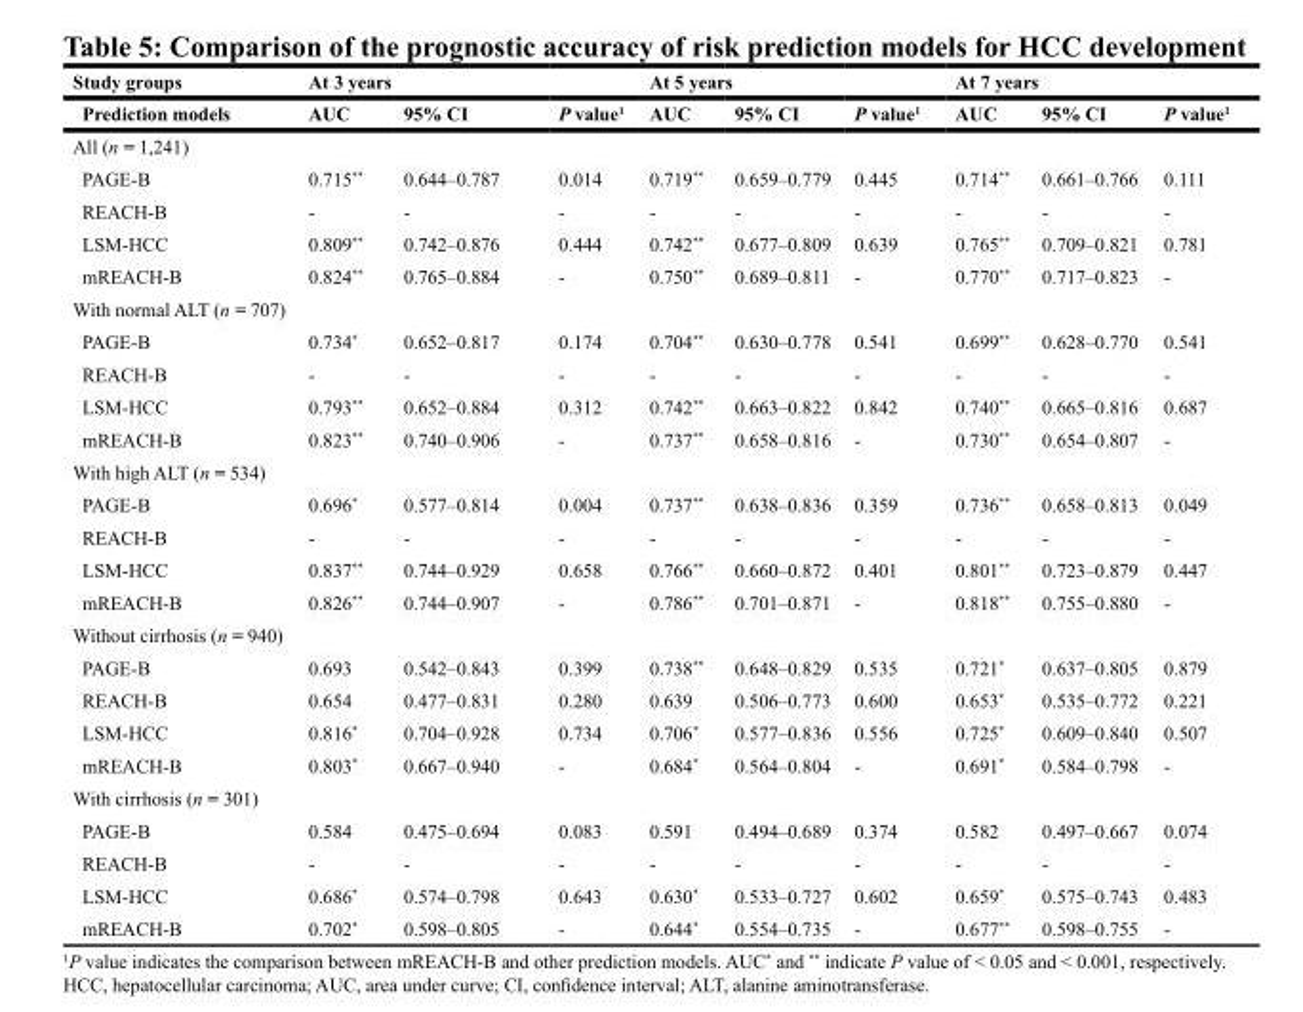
<table><thead><tr><td rowspan="2">Study groups Prediction models</td><td colspan="2">At 3 years</td><td colspan="3">At 5 years</td><td colspan="3">At 7 years</td><td rowspan="2">P value<sup>1</sup></td></tr><tr><td>AUC</td><td>95% CI</td><td>P value<sup>1</sup></td><td>AUC</td><td>95% CI</td><td>P value<sup>1</sup></td><td>AUC</td><td>95% CI</td></tr></thead><tbody><tr><td colspan="10">All (n = 1,241)</td></tr><tr><td>PAGE-B</td><td>0.715**</td><td>0.644–0.787</td><td>0.014</td><td>0.719**</td><td>0.659–0.779</td><td>0.445</td><td>0.714**</td><td>0.661–0.766</td><td>0.111</td></tr><tr><td>REACH-B</td><td>-</td><td>-</td><td>-</td><td>-</td><td>-</td><td>-</td><td>-</td><td>-</td><td>-</td></tr><tr><td>LSM-HCC</td><td>0.809**</td><td>0.742–0.876</td><td>0.444</td><td>0.742**</td><td>0.677–0.809</td><td>0.639</td><td>0.765**</td><td>0.709–0.821</td><td>0.781</td></tr><tr><td>mREACH-B</td><td>0.824**</td><td>0.765–0.884</td><td>-</td><td>0.750**</td><td>0.689–0.811</td><td>-</td><td>0.770**</td><td>0.717–0.823</td><td>-</td></tr><tr><td colspan="10">With normal ALT (n = 707)</td></tr><tr><td>PAGE-B</td><td>0.734*</td><td>0.652–0.817</td><td>0.174</td><td>0.704**</td><td>0.630–0.778</td><td>0.541</td><td>0.699**</td><td>0.628–0.770</td><td>0.541</td></tr><tr><td>REACH-B</td><td>-</td><td>-</td><td>-</td><td>-</td><td>-</td><td>-</td><td>-</td><td>-</td><td>-</td></tr><tr><td>LSM-HCC</td><td>0.793**</td><td>0.652–0.884</td><td>0.312</td><td>0.742**</td><td>0.663–0.822</td><td>0.842</td><td>0.740**</td><td>0.665–0.816</td><td>0.687</td></tr><tr><td>mREACH-B</td><td>0.823**</td><td>0.740–0.906</td><td>-</td><td>0.737**</td><td>0.658–0.816</td><td>-</td><td>0.730**</td><td>0.654–0.807</td><td>-</td></tr><tr><td colspan="10">With high ALT (n = 534)</td></tr><tr><td>PAGE-B</td><td>0.696*</td><td>0.577–0.814</td><td>0.004</td><td>0.737**</td><td>0.638–0.836</td><td>0.359</td><td>0.736**</td><td>0.658–0.813</td><td>0.049</td></tr><tr><td>REACH-B</td><td>-</td><td>-</td><td>-</td><td>-</td><td>-</td><td>-</td><td>-</td><td>-</td><td>-</td></tr><tr><td>LSM-HCC</td><td>0.837**</td><td>0.744–0.929</td><td>0.658</td><td>0.766**</td><td>0.660–0.872</td><td>0.401</td><td>0.801**</td><td>0.723–0.879</td><td>0.447</td></tr><tr><td>mREACH-B</td><td>0.826**</td><td>0.744–0.907</td><td>-</td><td>0.786**</td><td>0.701–0.871</td><td>-</td><td>0.818**</td><td>0.755–0.880</td><td>-</td></tr><tr><td colspan="10">Without cirrhosis (n = 940)</td></tr><tr><td>PAGE-B</td><td>0.693</td><td>0.542–0.843</td><td>0.399</td><td>0.738**</td><td>0.648–0.829</td><td>0.535</td><td>0.721*</td><td>0.637–0.805</td><td>0.879</td></tr><tr><td>REACH-B</td><td>0.654</td><td>0.477–0.831</td><td>0.280</td><td>0.639</td><td>0.506–0.773</td><td>0.600</td><td>0.653*</td><td>0.535–0.772</td><td>0.221</td></tr><tr><td>LSM-HCC</td><td>0.816*</td><td>0.704–0.928</td><td>0.734</td><td>0.706*</td><td>0.577–0.836</td><td>0.556</td><td>0.725*</td><td>0.609–0.840</td><td>0.507</td></tr><tr><td>mREACH-B</td><td>0.803*</td><td>0.667–0.940</td><td>-</td><td>0.684*</td><td>0.564–0.804</td><td>-</td><td>0.691*</td><td>0.584–0.798</td><td>-</td></tr><tr><td colspan="10">With cirrhosis (n = 301)</td></tr><tr><td>PAGE-B</td><td>0.584</td><td>0.475–0.694</td><td>0.083</td><td>0.591</td><td>0.494–0.689</td><td>0.374</td><td>0.582</td><td>0.497–0.667</td><td>0.074</td></tr><tr><td>REACH-B</td><td>-</td><td>-</td><td>-</td><td>-</td><td>-</td><td>-</td><td>-</td><td>-</td><td>-</td></tr><tr><td>LSM-HCC</td><td>0.686*</td><td>0.574–0.798</td><td>0.643</td><td>0.630*</td><td>0.533–0.727</td><td>0.602</td><td>0.659*</td><td>0.575–0.743</td><td>0.483</td></tr><tr><td>mREACH-B</td><td>0.702*</td><td>0.598–0.805</td><td>-</td><td>0.644*</td><td>0.554–0.735</td><td>-</td><td>0.677**</td><td>0.598–0.755</td><td>-</td></tr></tbody></table>